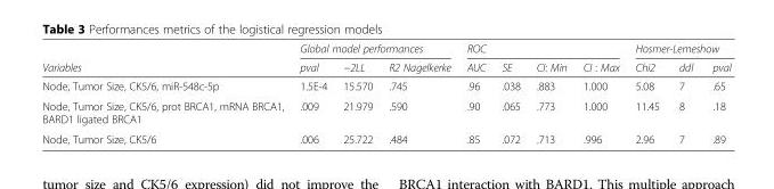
<table><thead><tr><td rowspan="2">Variables</td><td colspan="3">Global model performances</td><td colspan="4">ROC</td><td colspan="3">Hosmer-Lemeshow</td></tr><tr><td>pval</td><td>−2LL</td><td>R2 Nagelkerke</td><td>AUC</td><td>SE</td><td>CI: Min</td><td>CI : Max</td><td>Chi2</td><td>ddl</td><td>pval</td></tr></thead><tbody><tr><td>Node, Tumor Size, CK5/6, miR-548c-5p</td><td>1.5E-4</td><td>15.570</td><td>.745</td><td>.96</td><td>.038</td><td>.883</td><td>1.000</td><td>5.08</td><td>7</td><td>.65</td></tr><tr><td>Node, Tumor Size, CK5/6, prot BRCA1, mRNA BRCA1, BARD1 ligated BRCA1</td><td>.009</td><td>21.979</td><td>.590</td><td>.90</td><td>.065</td><td>.773</td><td>1.000</td><td>11.45</td><td>8</td><td>.18</td></tr><tr><td>Node, Tumor Size, CK5/6</td><td>.006</td><td>25.722</td><td>.484</td><td>.85</td><td>.072</td><td>.713</td><td>.996</td><td>2.96</td><td>7</td><td>.89</td></tr></tbody></table>